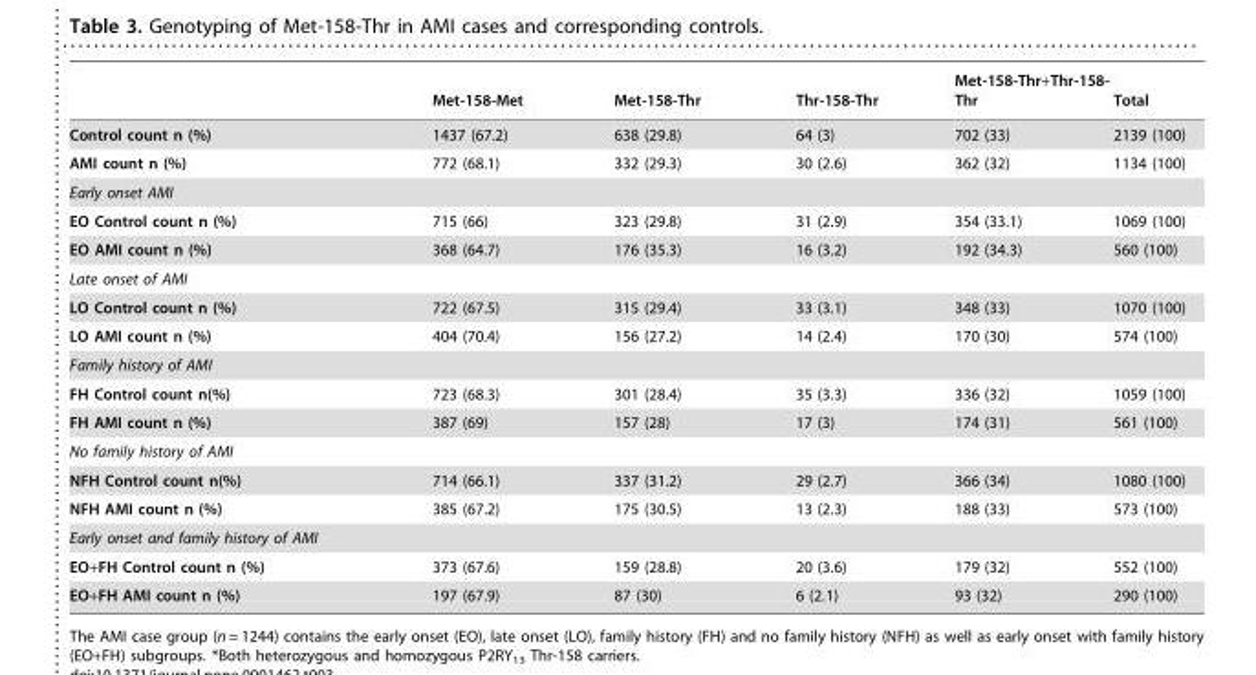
<table><thead><tr><td></td><td>Met-158-Met</td><td>Met-158-Thr</td><td>Thr-158-Thr</td><td>Met-158-Thr+Thr-158- Thr</td><td>Total</td></tr></thead><tbody><tr><td>Control count n (%)</td><td>1437 (67.2)</td><td>638 (29.8)</td><td>64 (3)</td><td>702 (33)</td><td>2139 (100)</td></tr><tr><td>AMI count n (%)</td><td>772 (68.1)</td><td>332 (29.3)</td><td>30 (2.6)</td><td>362 (32)</td><td>1134 (100)</td></tr><tr><td colspan="6">Early onset AMI</td></tr><tr><td>EO Control count n (%)</td><td>715 (66)</td><td>323 (29.8)</td><td>31 (2.9)</td><td>354 (33.1)</td><td>1069 (100)</td></tr><tr><td>EO AMI count n (%)</td><td>368 (64.7)</td><td>176 (35.3)</td><td>16 (3.2)</td><td>192 (34.3)</td><td>560 (100)</td></tr><tr><td colspan="6">Late onset of AMI</td></tr><tr><td>LO Control count n (%)</td><td>722 (67.5)</td><td>315 (29.4)</td><td>33 (3.1)</td><td>348 (33)</td><td>1070 (100)</td></tr><tr><td>LO AMI count n (%)</td><td>404 (70.4)</td><td>156 (27.2)</td><td>14 (2.4)</td><td>170 (30)</td><td>574 (100)</td></tr><tr><td colspan="6">Family history of AMI</td></tr><tr><td>FH Control count n(%)</td><td>723 (68.3)</td><td>301 (28.4)</td><td>35 (3.3)</td><td>336 (32)</td><td>1059 (100)</td></tr><tr><td>FH AMI count n (%)</td><td>387 (69)</td><td>157 (28)</td><td>17 (3)</td><td>174 (31)</td><td>561 (100)</td></tr><tr><td colspan="6">No family history of AMI</td></tr><tr><td>NFH Control count n(%)</td><td>714 (66.1)</td><td>337 (31.2)</td><td>29 (2.7)</td><td>366 (34)</td><td>1080 (100)</td></tr><tr><td>NFH AMI count n (%)</td><td>385 (67.2)</td><td>175 (30.5)</td><td>13 (2.3)</td><td>188 (33)</td><td>573 (100)</td></tr><tr><td colspan="6">Early onset and family history of AMI</td></tr><tr><td>EO+FH Control count n (%)</td><td>373 (67.6)</td><td>159 (28.8)</td><td>20 (3.6)</td><td>179 (32)</td><td>552 (100)</td></tr><tr><td>EO+FH AMI count n (%)</td><td>197 (67.9)</td><td>87 (30)</td><td>6 (2.1)</td><td>93 (32)</td><td>290 (100)</td></tr></tbody></table>